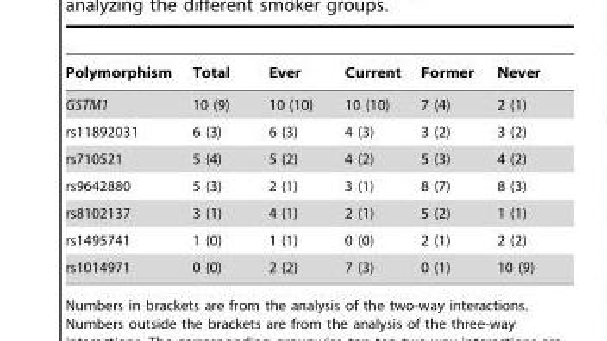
<table><thead><tr><td>Polymorphism</td><td>Total</td><td>Ever</td><td>Current</td><td>Former</td><td>Never</td></tr></thead><tbody><tr><td>GSTM1</td><td>10 (9)</td><td>10 (10)</td><td>10 (10)</td><td>7 (4)</td><td>2 (1)</td></tr><tr><td>rs11892031</td><td>6 (3)</td><td>6 (3)</td><td>4 (3)</td><td>3 (2)</td><td>3 (2)</td></tr><tr><td>rs710521</td><td>5 (4)</td><td>5 (2)</td><td>4 (2)</td><td>5 (3)</td><td>4 (2)</td></tr><tr><td>rs9642880</td><td>5 (3)</td><td>2 (1)</td><td>3 (1)</td><td>8 (7)</td><td>8 (3)</td></tr><tr><td>rs8102137</td><td>3 (1)</td><td>4 (1)</td><td>2 (1)</td><td>5 (2)</td><td>1 (1)</td></tr><tr><td>rs1495741</td><td>1 (0)</td><td>1 (1)</td><td>0 (0)</td><td>2 (1)</td><td>2 (2)</td></tr><tr><td>rs1014971</td><td>0 (0)</td><td>2 (2)</td><td>7 (3)</td><td>0 (1)</td><td>10 (9)</td></tr></tbody></table>